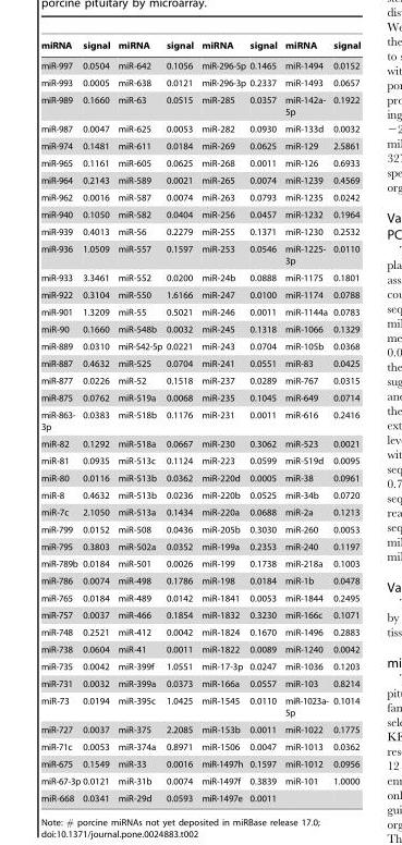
<table><thead><tr><td>miRNA</td><td>signal</td><td>miRNA</td><td>signal</td><td>miRNA</td><td>signal</td><td>miRNA</td><td>signal</td></tr></thead><tbody><tr><td>miR-997</td><td>0.0504</td><td>miR-642</td><td>0.1056</td><td>miR-296-5p</td><td>0.1465</td><td>miR-1494</td><td>0.0152</td></tr><tr><td>miR-993</td><td>0.0005</td><td>miR-638</td><td>0.0121</td><td>miR-296-3p</td><td>0.2337</td><td>miR-1493</td><td>0.0657</td></tr><tr><td>miR-989</td><td>0.1660</td><td>miR-63</td><td>0.0515</td><td>miR-285</td><td>0.0357</td><td>miR-142a- 5p</td><td>0.1922</td></tr><tr><td>miR-987</td><td>0.0047</td><td>miR-625</td><td>0.0053</td><td>miR-282</td><td>0.0930</td><td>miR-133d</td><td>0.0032</td></tr><tr><td>miR-974</td><td>0.1481</td><td>miR-611</td><td>0.0184</td><td>miR-269</td><td>0.0625</td><td>miR-129</td><td>2.5861</td></tr><tr><td>miR-965</td><td>0.1161</td><td>miR-605</td><td>0.0625</td><td>miR-268</td><td>0.0011</td><td>miR-126</td><td>0.6933</td></tr><tr><td>miR-964</td><td>0.2143</td><td>miR-589</td><td>0.0021</td><td>miR-265</td><td>0.0074</td><td>miR-1239</td><td>0.4569</td></tr><tr><td>miR-962</td><td>0.0016</td><td>miR-587</td><td>0.0074</td><td>miR-263</td><td>0.0793</td><td>miR-1235</td><td>0.0242</td></tr><tr><td>miR-940</td><td>0.1050</td><td>miR-582</td><td>0.0404</td><td>miR-256</td><td>0.0457</td><td>miR-1232</td><td>0.1964</td></tr><tr><td>miR-939</td><td>0.4013</td><td>miR-56</td><td>0.2279</td><td>miR-255</td><td>0.1371</td><td>miR-1230</td><td>0.2532</td></tr><tr><td>miR-936</td><td>1.0509</td><td>miR-557</td><td>0.1597</td><td>miR-253</td><td>0.0546</td><td>miR-1225- 3p</td><td>0.0110</td></tr><tr><td>miR-933</td><td>3.3461</td><td>miR-552</td><td>0.0200</td><td>miR-24b</td><td>0.0888</td><td>miR-1175</td><td>0.1801</td></tr><tr><td>miR-922</td><td>0.3104</td><td>miR-550</td><td>1.6166</td><td>miR-247</td><td>0.0100</td><td>miR-1174</td><td>0.0788</td></tr><tr><td>miR-901</td><td>1.3209</td><td>miR-55</td><td>0.5021</td><td>miR-246</td><td>0.0011</td><td>miR-1144a</td><td>0.0783</td></tr><tr><td>miR-90</td><td>0.1660</td><td>miR-548b</td><td>0.0032</td><td>miR-245</td><td>0.1318</td><td>miR-1066</td><td>0.1329</td></tr><tr><td>miR-889</td><td>0.0310</td><td>miR-542-5p</td><td>0.0221</td><td>miR-243</td><td>0.0704</td><td>miR-105b</td><td>0.0368</td></tr><tr><td>miR-887</td><td>0.4632</td><td>miR-525</td><td>0.0704</td><td>miR-241</td><td>0.0551</td><td>miR-83</td><td>0.0425</td></tr><tr><td>miR-877</td><td>0.0226</td><td>miR-52</td><td>0.1518</td><td>miR-237</td><td>0.0289</td><td>miR-767</td><td>0.0315</td></tr><tr><td>miR-875</td><td>0.0762</td><td>miR-519a</td><td>0.0068</td><td>miR-235</td><td>0.1045</td><td>miR-649</td><td>0.0714</td></tr><tr><td>miR-863- 3p</td><td>0.0383</td><td>miR-518b</td><td>0.1176</td><td>miR-231</td><td>0.0011</td><td>miR-616</td><td>0.2416</td></tr><tr><td>miR-82</td><td>0.1292</td><td>miR-518a</td><td>0.0667</td><td>miR-230</td><td>0.3062</td><td>miR-523</td><td>0.0021</td></tr><tr><td>miR-81</td><td>0.0935</td><td>miR-513c</td><td>0.1124</td><td>miR-223</td><td>0.0599</td><td>miR-519d</td><td>0.0095</td></tr><tr><td>miR-80</td><td>0.0116</td><td>miR-513b</td><td>0.0362</td><td>miR-220d</td><td>0.0005</td><td>miR-38</td><td>0.0961</td></tr><tr><td>miR-8</td><td>0.4632</td><td>miR-513b</td><td>0.0236</td><td>miR-220b</td><td>0.0525</td><td>miR-34b</td><td>0.0720</td></tr><tr><td>miR-7c</td><td>2.1050</td><td>miR-513a</td><td>0.1434</td><td>miR-220a</td><td>0.0688</td><td>miR-2a</td><td>0.1213</td></tr><tr><td>miR-799</td><td>0.0152</td><td>miR-508</td><td>0.0436</td><td>miR-205b</td><td>0.3030</td><td>miR-260</td><td>0.0053</td></tr><tr><td>miR-795</td><td>0.3803</td><td>miR-502a</td><td>0.0352</td><td>miR-199a</td><td>0.2353</td><td>miR-240</td><td>0.1197</td></tr><tr><td>miR-789b</td><td>0.0184</td><td>miR-501</td><td>0.0026</td><td>miR-199</td><td>0.1738</td><td>miR-218a</td><td>0.1003</td></tr><tr><td>miR-786</td><td>0.0074</td><td>miR-498</td><td>0.1786</td><td>miR-198</td><td>0.0184</td><td>miR-1b</td><td>0.0478</td></tr><tr><td>miR-765</td><td>0.0184</td><td>miR-489</td><td>0.0142</td><td>miR-1841</td><td>0.0053</td><td>miR-1844</td><td>0.2495</td></tr><tr><td>miR-757</td><td>0.0037</td><td>miR-466</td><td>0.1854</td><td>miR-1832</td><td>0.3230</td><td>miR-166c</td><td>0.1071</td></tr><tr><td>miR-748</td><td>0.2521</td><td>miR-412</td><td>0.0042</td><td>miR-1824</td><td>0.1670</td><td>miR-1496</td><td>0.2883</td></tr><tr><td>miR-738</td><td>0.0604</td><td>miR-41</td><td>0.0011</td><td>miR-1822</td><td>0.0089</td><td>miR-1240</td><td>0.0042</td></tr><tr><td>miR-735</td><td>0.0042</td><td>miR-399f</td><td>1.0551</td><td>miR-17-3p</td><td>0.0247</td><td>miR-1036</td><td>0.1203</td></tr><tr><td>miR-731</td><td>0.0032</td><td>miR-399a</td><td>0.0373</td><td>miR-166a</td><td>0.0557</td><td>miR-103</td><td>0.8214</td></tr><tr><td>miR-73</td><td>0.0194</td><td>miR-395c</td><td>1.0425</td><td>miR-1545</td><td>0.0110</td><td>miR-1023a- 5p</td><td>0.1014</td></tr><tr><td>miR-727</td><td>0.0037</td><td>miR-375</td><td>2.2085</td><td>miR-153b</td><td>0.0011</td><td>miR-1022</td><td>0.1775</td></tr><tr><td>miR-71c</td><td>0.0053</td><td>miR-374a</td><td>0.8971</td><td>miR-1506</td><td>0.0047</td><td>miR-1013</td><td>0.0362</td></tr><tr><td>miR-675</td><td>0.1549</td><td>miR-33</td><td>0.0016</td><td>miR-1497h</td><td>0.1597</td><td>miR-1012</td><td>0.0956</td></tr><tr><td>miR-67-3p</td><td>0.0121</td><td>miR-31b</td><td>0.0074</td><td>miR-1497f</td><td>0.3839</td><td>miR-101</td><td>1.0000</td></tr><tr><td>miR-668</td><td>0.0341</td><td>miR-29d</td><td>0.0593</td><td>miR-1497e</td><td>0.0011</td><td></td><td></td></tr></tbody></table>